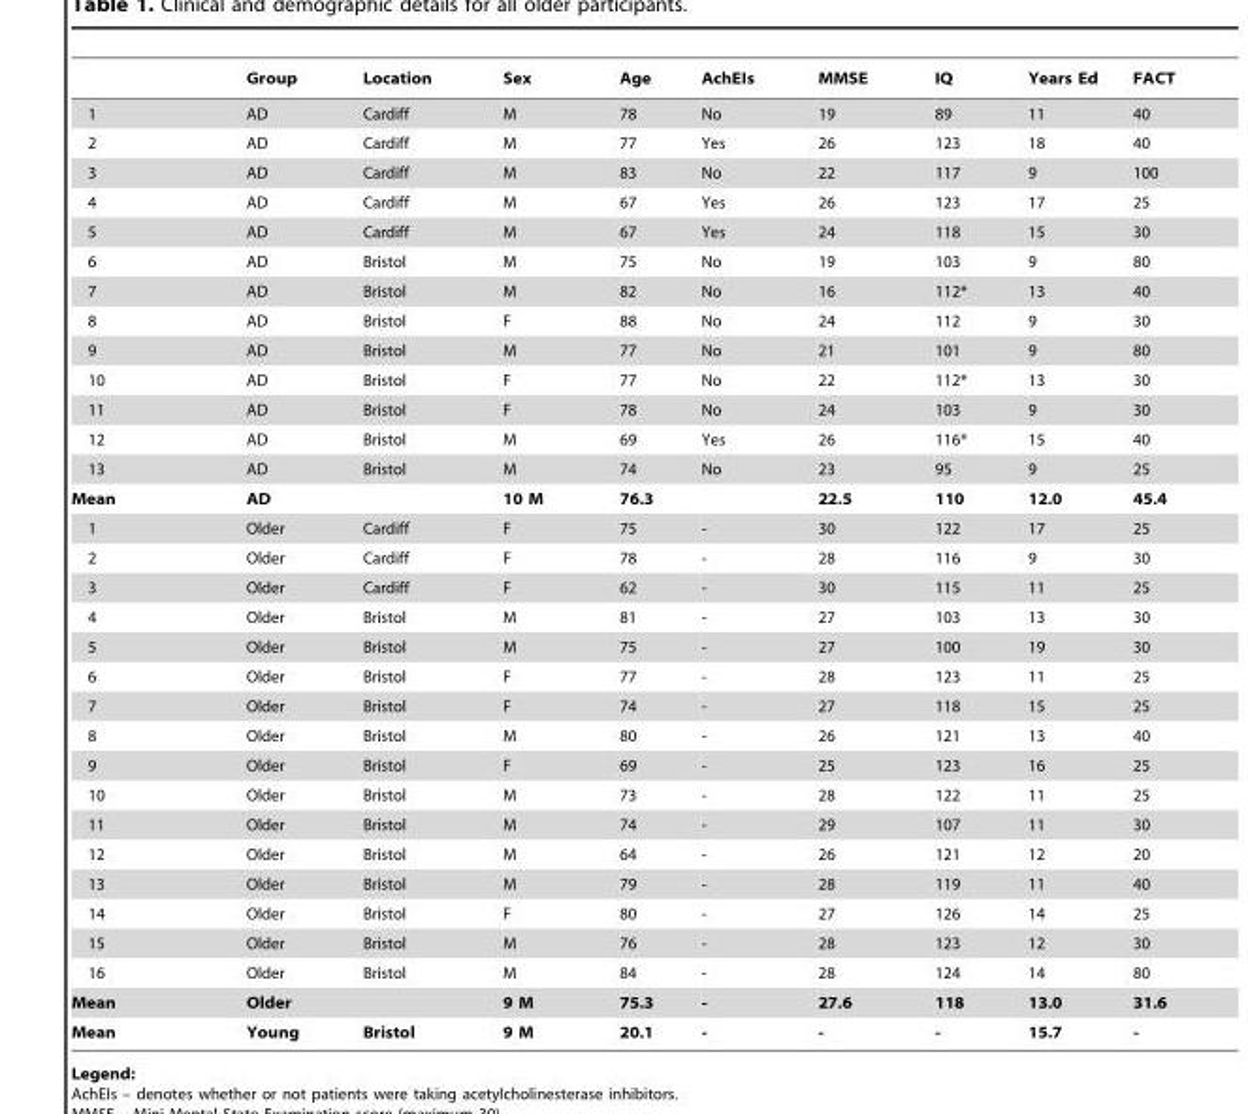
<table><thead><tr><td></td><td>Group</td><td>Location</td><td>Sex</td><td>Age</td><td>AchEIs</td><td>MMSE</td><td>IQ</td><td>Years Ed</td><td>FACT</td></tr></thead><tbody><tr><td>1</td><td>AD</td><td>Cardiff</td><td>M</td><td>78</td><td>No</td><td>19</td><td>89</td><td>11</td><td>40</td></tr><tr><td>2</td><td>AD</td><td>Cardiff</td><td>M</td><td>77</td><td>Yes</td><td>26</td><td>123</td><td>18</td><td>40</td></tr><tr><td>3</td><td>AD</td><td>Cardiff</td><td>M</td><td>83</td><td>No</td><td>22</td><td>117</td><td>9</td><td>100</td></tr><tr><td>4</td><td>AD</td><td>Cardiff</td><td>M</td><td>67</td><td>Yes</td><td>26</td><td>123</td><td>17</td><td>25</td></tr><tr><td>5</td><td>AD</td><td>Cardiff</td><td>M</td><td>67</td><td>Yes</td><td>24</td><td>118</td><td>15</td><td>30</td></tr><tr><td>6</td><td>AD</td><td>Bristol</td><td>M</td><td>75</td><td>No</td><td>19</td><td>103</td><td>9</td><td>80</td></tr><tr><td>7</td><td>AD</td><td>Bristol</td><td>M</td><td>82</td><td>No</td><td>16</td><td>112*</td><td>13</td><td>40</td></tr><tr><td>8</td><td>AD</td><td>Bristol</td><td>F</td><td>88</td><td>No</td><td>24</td><td>112</td><td>9</td><td>30</td></tr><tr><td>9</td><td>AD</td><td>Bristol</td><td>M</td><td>77</td><td>No</td><td>21</td><td>101</td><td>9</td><td>80</td></tr><tr><td>10</td><td>AD</td><td>Bristol</td><td>F</td><td>77</td><td>No</td><td>22</td><td>112*</td><td>13</td><td>30</td></tr><tr><td>11</td><td>AD</td><td>Bristol</td><td>F</td><td>78</td><td>No</td><td>24</td><td>103</td><td>9</td><td>30</td></tr><tr><td>12</td><td>AD</td><td>Bristol</td><td>M</td><td>69</td><td>Yes</td><td>26</td><td>116*</td><td>15</td><td>40</td></tr><tr><td>13</td><td>AD</td><td>Bristol</td><td>M</td><td>74</td><td>No</td><td>23</td><td>95</td><td>9</td><td>25</td></tr><tr><td>Mean</td><td>AD</td><td></td><td>10 M</td><td>76.3</td><td></td><td>22.5</td><td>110</td><td>12.0</td><td>45.4</td></tr><tr><td>1</td><td>Older</td><td>Cardiff</td><td>F</td><td>75</td><td>-</td><td>30</td><td>122</td><td>17</td><td>25</td></tr><tr><td>2</td><td>Older</td><td>Cardiff</td><td>F</td><td>78</td><td>-</td><td>28</td><td>116</td><td>9</td><td>30</td></tr><tr><td>3</td><td>Older</td><td>Cardiff</td><td>F</td><td>62</td><td>-</td><td>30</td><td>115</td><td>11</td><td>25</td></tr><tr><td>4</td><td>Older</td><td>Bristol</td><td>M</td><td>81</td><td>-</td><td>27</td><td>103</td><td>13</td><td>30</td></tr><tr><td>5</td><td>Older</td><td>Bristol</td><td>M</td><td>75</td><td>-</td><td>27</td><td>100</td><td>19</td><td>30</td></tr><tr><td>6</td><td>Older</td><td>Bristol</td><td>F</td><td>77</td><td>-</td><td>28</td><td>123</td><td>11</td><td>25</td></tr><tr><td>7</td><td>Older</td><td>Bristol</td><td>F</td><td>74</td><td>-</td><td>27</td><td>118</td><td>15</td><td>25</td></tr><tr><td>8</td><td>Older</td><td>Bristol</td><td>M</td><td>80</td><td>-</td><td>26</td><td>121</td><td>13</td><td>40</td></tr><tr><td>9</td><td>Older</td><td>Bristol</td><td>F</td><td>69</td><td>-</td><td>25</td><td>123</td><td>16</td><td>25</td></tr><tr><td>10</td><td>Older</td><td>Bristol</td><td>M</td><td>73</td><td>-</td><td>28</td><td>122</td><td>11</td><td>25</td></tr><tr><td>11</td><td>Older</td><td>Bristol</td><td>M</td><td>74</td><td>-</td><td>29</td><td>107</td><td>11</td><td>30</td></tr><tr><td>12</td><td>Older</td><td>Bristol</td><td>M</td><td>64</td><td>-</td><td>26</td><td>121</td><td>12</td><td>20</td></tr><tr><td>13</td><td>Older</td><td>Bristol</td><td>M</td><td>79</td><td>-</td><td>28</td><td>119</td><td>11</td><td>40</td></tr><tr><td>14</td><td>Older</td><td>Bristol</td><td>F</td><td>80</td><td>-</td><td>27</td><td>126</td><td>14</td><td>25</td></tr><tr><td>15</td><td>Older</td><td>Bristol</td><td>M</td><td>76</td><td>-</td><td>28</td><td>123</td><td>12</td><td>30</td></tr><tr><td>16</td><td>Older</td><td>Bristol</td><td>M</td><td>84</td><td>-</td><td>28</td><td>124</td><td>14</td><td>80</td></tr><tr><td>Mean</td><td>Older</td><td></td><td>9 M</td><td>75.3</td><td>-</td><td>27.6</td><td>118</td><td>13.0</td><td>31.6</td></tr><tr><td>Mean</td><td>Young</td><td>Bristol</td><td>9 M</td><td>20.1</td><td>-</td><td>-</td><td>-</td><td>15.7</td><td>-</td></tr></tbody></table>